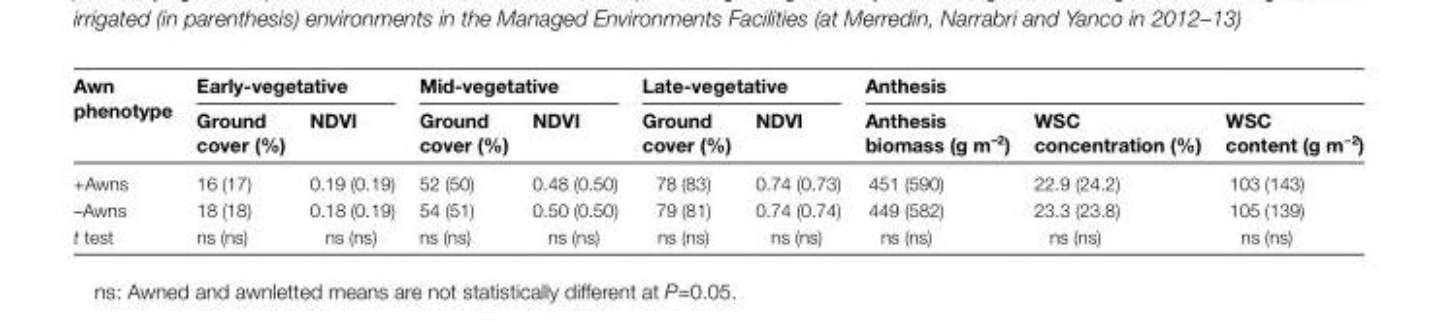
<table><thead><tr><td rowspan="2">Awn phenotype</td><td colspan="2">Early-vegetative</td><td colspan="2">Mid-vegetative</td><td colspan="2">Late-vegetative</td><td colspan="3">Anthesis</td></tr><tr><td>Ground cover (%)</td><td>NDVI</td><td>Ground cover (%)</td><td>NDVI</td><td>Ground cover (%)</td><td>NDVI</td><td>Anthesis biomass (g m<sup>–2</sup>)</td><td>WSC concentration (%)</td><td>WSC content (g m<sup>−2</sup>)</td></tr></thead><tbody><tr><td>+Awns</td><td>16 (17)</td><td>0.19 (0.19)</td><td>52 (50)</td><td>0.48 (0.50)</td><td>78 (83)</td><td>0.74 (0.73)</td><td>451 (590)</td><td>22.9 (24.2)</td><td>103 (143)</td></tr><tr><td>–Awns</td><td>18 (18)</td><td>0.18 (0.19)</td><td>54 (51)</td><td>0.50 (0.50)</td><td>79 (81)</td><td>0.74 (0.74)</td><td>449 (582)</td><td>23.3 (23.8)</td><td>105 (139)</td></tr><tr><td>t test</td><td>ns (ns)</td><td>ns (ns)</td><td>ns (ns)</td><td>ns (ns)</td><td>ns (ns)</td><td>ns (ns)</td><td>ns (ns)</td><td>ns (ns)</td><td>ns (ns)</td></tr></tbody></table>